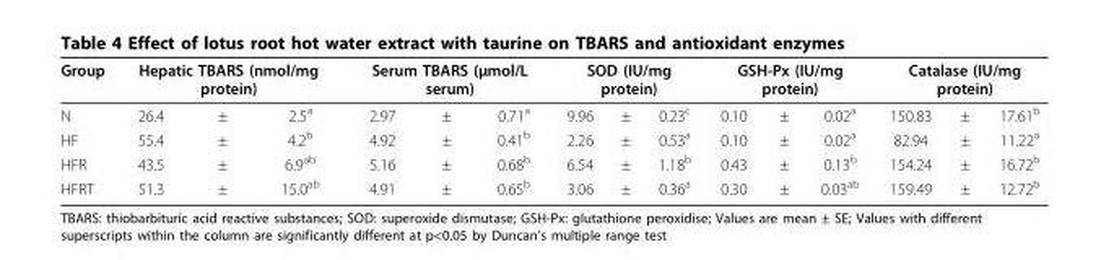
<table><thead><tr><td rowspan="2">Group N</td><td colspan="3">Hepatic TBARS (nmol/mg protein)</td><td colspan="3">Serum TBARS (µmol/L serum)</td><td colspan="3">SOD (IU/mg protein)</td><td colspan="3">GSH-Px (IU/mg protein)</td><td colspan="3">Catalase (IU/mg protein)</td></tr><tr><td>26.4</td><td>±</td><td>2.5<sup>a</sup></td><td>2.97</td><td>±</td><td>0.71<sup>a</sup></td><td>9.96</td><td>±</td><td>0.23<sup>c</sup></td><td>0.10</td><td>±</td><td>0.02<sup>a</sup></td><td>150.83</td><td>±</td><td>17.61<sup>b</sup></td></tr></thead><tbody><tr><td>HF</td><td>55.4</td><td>±</td><td>4.2<sup>b</sup></td><td>4.92</td><td>±</td><td>0.41<sup>b</sup></td><td>2.26</td><td>±</td><td>0.53<sup>a</sup></td><td>0.10</td><td>±</td><td>0.02<sup>a</sup></td><td>82.94</td><td>±</td><td>11.22<sup>a</sup></td></tr><tr><td>HFR</td><td>43.5</td><td>±</td><td>6.9<sup>ab</sup></td><td>5.16</td><td>±</td><td>0.68<sup>b</sup></td><td>6.54</td><td>±</td><td>1.18<sup>b</sup></td><td>0.43</td><td>±</td><td>0.13<sup>b</sup></td><td>154.24</td><td>±</td><td>16.72<sup>b</sup></td></tr><tr><td>HFRT</td><td>51.3</td><td>±</td><td>15.0<sup>ab</sup></td><td>4.91</td><td>±</td><td>0.65<sup>b</sup></td><td>3.06</td><td>±</td><td>0.36<sup>a</sup></td><td>0.30</td><td>±</td><td>0.03<sup>ab</sup></td><td>159.49</td><td>±</td><td>12.72<sup>b</sup></td></tr></tbody></table>